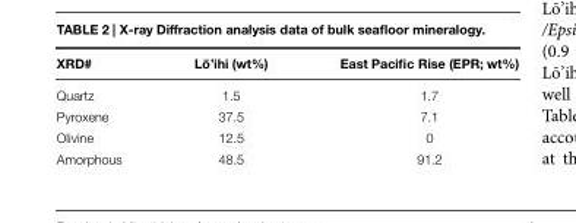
<table><thead><tr><td>XRD#</td><td>L ¯o’ihi (wt%)</td><td>East Pacific Rise (EPR; wt%)</td></tr></thead><tbody><tr><td>Quartz</td><td>1.5</td><td>1.7</td></tr><tr><td>Pyroxene</td><td>37.5</td><td>7.1</td></tr><tr><td>Olivine</td><td>12.5</td><td>0</td></tr><tr><td>Amorphous</td><td>48.5</td><td>91.2</td></tr></tbody></table>